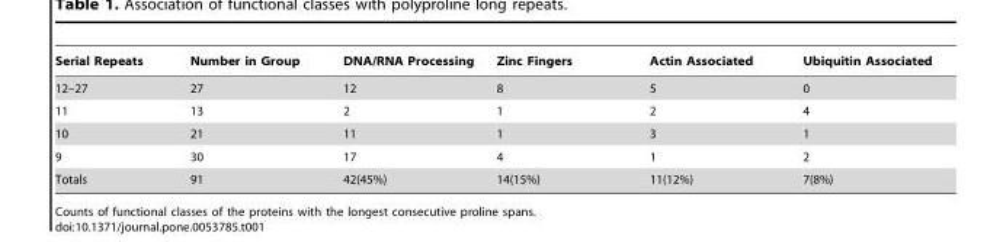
<table><thead><tr><td>Serial Repeats</td><td>Number in Group</td><td>DNA/RNA Processing</td><td>Zinc Fingers</td><td>Actin Associated</td><td>Ubiquitin Associated</td></tr></thead><tbody><tr><td>12–27</td><td>27</td><td>12</td><td>8</td><td>5</td><td>0</td></tr><tr><td>11</td><td>13</td><td>2</td><td>1</td><td>2</td><td>4</td></tr><tr><td>10</td><td>21</td><td>11</td><td>1</td><td>3</td><td>1</td></tr><tr><td>9</td><td>30</td><td>17</td><td>4</td><td>1</td><td>2</td></tr><tr><td>Totals</td><td>91</td><td>42(45%)</td><td>14(15%)</td><td>11(12%)</td><td>7(8%)</td></tr></tbody></table>